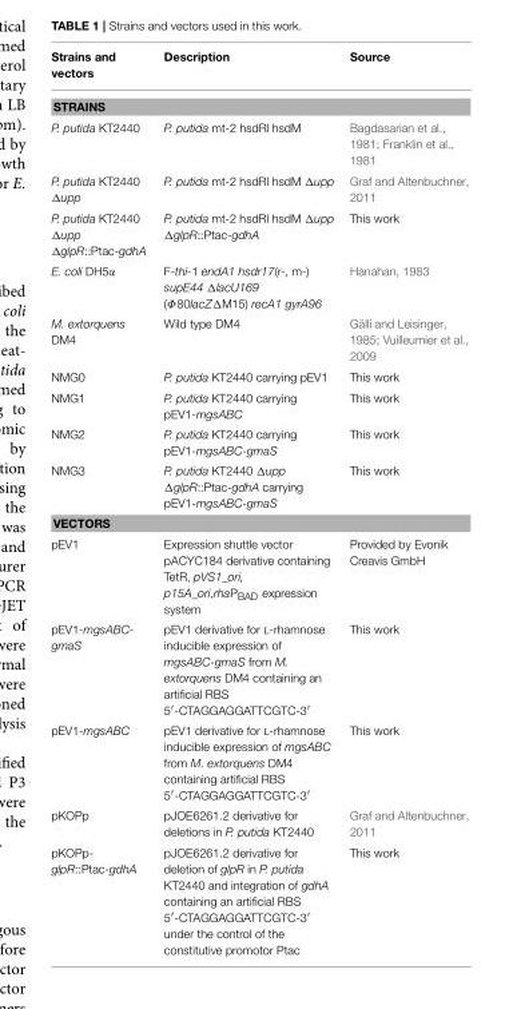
<table><thead><tr><td>Strains and vectors</td><td>Description</td><td>Source</td></tr></thead><tbody><tr><td colspan="3">STRAINS</td></tr><tr><td>P. putida KT2440</td><td>P. putida mt-2 hsdRl hsdM</td><td>Bagdasarian et al., 1981; Franklin et al., 1981</td></tr><tr><td>P. putida KT2440 Δupp</td><td>P. putida mt-2 hsdRl hsdM Δupp</td><td>Graf and Altenbuchner, 2011</td></tr><tr><td>P. putida KT2440 Δupp ΔglpR::Ptac-gdhA</td><td>P. putida mt-2 hsdRl hsdM Δupp ΔglpR::Ptac-gdhA</td><td>This work</td></tr><tr><td>E. coli DH5α</td><td>F-thi-1 endA1 hsdr17(r-, m-) supE44 ΔlacU169 (Φ80lacZΔM15) recA1 gyrA96</td><td>Hanahan, 1983</td></tr><tr><td>M. extorquens DM4</td><td>Wild type DM4</td><td>Gälli and Leisinger, 1985; Vuilleumier et al., 2009</td></tr><tr><td>NMG0</td><td>P. putida KT2440 carrying pEV1</td><td>This work</td></tr><tr><td>NMG1</td><td>P. putida KT2440 carrying pEV1-mgsABC</td><td>This work</td></tr><tr><td>NMG2</td><td>P. putida KT2440 carrying pEV1-mgsABC-gmaS</td><td>This work</td></tr><tr><td>NMG3</td><td>P. putida KT2440 Δupp ΔglpR::Ptac-gdhA carrying pEV1-mgsABC-gmaS</td><td>This work</td></tr><tr><td colspan="3">VECTORS</td></tr><tr><td>pEV1</td><td>Expression shuttle vector pACYC184 derivative containing TetR, pVS1_ori, p15A_ori,rhaP<sub>BAD</sub> expression system</td><td>Provided by Evonik Creavis GmbH</td></tr><tr><td>pEV1-mgsABC- gmaS</td><td>pEV1 derivative for L-rhamnose inducible expression of mgsABC-gmaS from M. extorquens DM4 containing an artificial RBS 5′-CTAGGAGGATTCGTC-3′</td><td>This work</td></tr><tr><td>pEV1-mgsABC</td><td>pEV1 derivative for L-rhamnose inducible expression of mgsABC from M. extorquens DM4 containing artificial RBS 5′-CTAGGAGGATTCGTC-3′</td><td>This work</td></tr><tr><td>pKOPp</td><td>pJOE6261.2 derivative for deletions in P. putida KT2440</td><td>Graf and Altenbuchner, 2011</td></tr><tr><td>pKOPp- glpR::Ptac-gdhA</td><td>pJOE6261.2 derivative for deletion of glpR in P. putida KT2440 and integration of gdhA containing an artificial RBS 5′-CTAGGAGGATTCGTC-3′ under the control of the constitutive promotor Ptac</td><td>This work</td></tr></tbody></table>